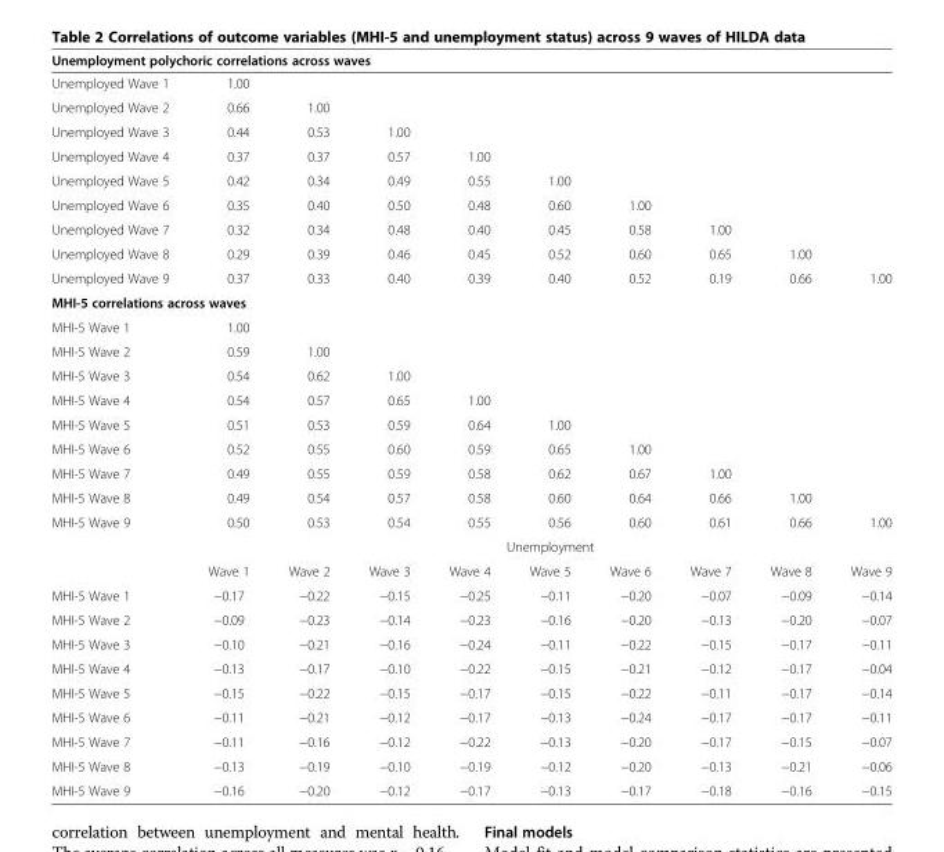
<table><thead><tr><td colspan="10">Unemployment polychoric correlations across waves</td></tr><tr><td>Unemployed Wave 1</td><td>1.00</td><td></td><td></td><td></td><td></td><td></td><td></td><td></td><td></td></tr></thead><tbody><tr><td>Unemployed Wave 2</td><td>0.66</td><td>1.00</td><td></td><td></td><td></td><td></td><td></td><td></td><td></td></tr><tr><td>Unemployed Wave 3</td><td>0.44</td><td>0.53</td><td>1.00</td><td></td><td></td><td></td><td></td><td></td><td></td></tr><tr><td>Unemployed Wave 4</td><td>0.37</td><td>0.37</td><td>0.57</td><td>1.00</td><td></td><td></td><td></td><td></td><td></td></tr><tr><td>Unemployed Wave 5</td><td>0.42</td><td>0.34</td><td>0.49</td><td>0.55</td><td>1.00</td><td></td><td></td><td></td><td></td></tr><tr><td>Unemployed Wave 6</td><td>0.35</td><td>0.40</td><td>0.50</td><td>0.48</td><td>0.60</td><td>1.00</td><td></td><td></td><td></td></tr><tr><td>Unemployed Wave 7</td><td>0.32</td><td>0.34</td><td>0.48</td><td>0.40</td><td>0.45</td><td>0.58</td><td>1.00</td><td></td><td></td></tr><tr><td>Unemployed Wave 8</td><td>0.29</td><td>0.39</td><td>0.46</td><td>0.45</td><td>0.52</td><td>0.60</td><td>0.65</td><td>1.00</td><td></td></tr><tr><td>Unemployed Wave 9</td><td>0.37</td><td>0.33</td><td>0.40</td><td>0.39</td><td>0.40</td><td>0.52</td><td>0.19</td><td>0.66</td><td>1.00</td></tr><tr><td colspan="10">MHI-5 correlations across waves</td></tr><tr><td>MHI-5 Wave 1</td><td>1.00</td><td></td><td></td><td></td><td></td><td></td><td></td><td></td><td></td></tr><tr><td>MHI-5 Wave 2</td><td>0.59</td><td>1.00</td><td></td><td></td><td></td><td></td><td></td><td></td><td></td></tr><tr><td>MHI-5 Wave 3</td><td>0.54</td><td>0.62</td><td>1.00</td><td></td><td></td><td></td><td></td><td></td><td></td></tr><tr><td>MHI-5 Wave 4</td><td>0.54</td><td>0.57</td><td>0.65</td><td>1.00</td><td></td><td></td><td></td><td></td><td></td></tr><tr><td>MHI-5 Wave 5</td><td>0.51</td><td>0.53</td><td>0.59</td><td>0.64</td><td>1.00</td><td></td><td></td><td></td><td></td></tr><tr><td>MHI-5 Wave 6</td><td>0.52</td><td>0.55</td><td>0.60</td><td>0.59</td><td>0.65</td><td>1.00</td><td></td><td></td><td></td></tr><tr><td>MHI-5 Wave 7</td><td>0.49</td><td>0.55</td><td>0.59</td><td>0.58</td><td>0.62</td><td>0.67</td><td>1.00</td><td></td><td></td></tr><tr><td>MHI-5 Wave 8</td><td>0.49</td><td>0.54</td><td>0.57</td><td>0.58</td><td>0.60</td><td>0.64</td><td>0.66</td><td>1.00</td><td></td></tr><tr><td rowspan="3">MHI-5 Wave 9</td><td>0.50</td><td>0.53</td><td>0.54</td><td>0.55</td><td>0.56</td><td>0.60</td><td>0.61</td><td>0.66</td><td>1.00</td></tr><tr><td colspan="9">Unemployment</td></tr><tr><td>Wave 1</td><td>Wave 2</td><td>Wave 3</td><td>Wave 4</td><td>Wave 5</td><td>Wave 6</td><td>Wave 7</td><td>Wave 8</td><td>Wave 9</td></tr><tr><td>MHI-5 Wave 1</td><td>−0.17</td><td>−0.22</td><td>−0.15</td><td>−0.25</td><td>−0.11</td><td>−0.20</td><td>−0.07</td><td>−0.09</td><td>−0.14</td></tr><tr><td>MHI-5 Wave 2</td><td>−0.09</td><td>−0.23</td><td>−0.14</td><td>−0.23</td><td>−0.16</td><td>−0.20</td><td>−0.13</td><td>−0.20</td><td>−0.07</td></tr><tr><td>MHI-5 Wave 3</td><td>−0.10</td><td>−0.21</td><td>−0.16</td><td>−0.24</td><td>−0.11</td><td>−0.22</td><td>−0.15</td><td>−0.17</td><td>−0.11</td></tr><tr><td>MHI-5 Wave 4</td><td>−0.13</td><td>−0.17</td><td>−0.10</td><td>−0.22</td><td>−0.15</td><td>−0.21</td><td>−0.12</td><td>−0.17</td><td>−0.04</td></tr><tr><td>MHI-5 Wave 5</td><td>−0.15</td><td>−0.22</td><td>−0.15</td><td>−0.17</td><td>−0.15</td><td>−0.22</td><td>−0.11</td><td>−0.17</td><td>−0.14</td></tr><tr><td>MHI-5 Wave 6</td><td>−0.11</td><td>−0.21</td><td>−0.12</td><td>−0.17</td><td>−0.13</td><td>−0.24</td><td>−0.17</td><td>−0.17</td><td>−0.11</td></tr><tr><td>MHI-5 Wave 7</td><td>−0.11</td><td>−0.16</td><td>−0.12</td><td>−0.22</td><td>−0.13</td><td>−0.20</td><td>−0.17</td><td>−0.15</td><td>−0.07</td></tr><tr><td>MHI-5 Wave 8</td><td>−0.13</td><td>−0.19</td><td>−0.10</td><td>−0.19</td><td>−0.12</td><td>−0.20</td><td>−0.13</td><td>−0.21</td><td>−0.06</td></tr><tr><td>MHI-5 Wave 9</td><td>−0.16</td><td>−0.20</td><td>−0.12</td><td>−0.17</td><td>−0.13</td><td>−0.17</td><td>−0.18</td><td>−0.16</td><td>−0.15</td></tr></tbody></table>